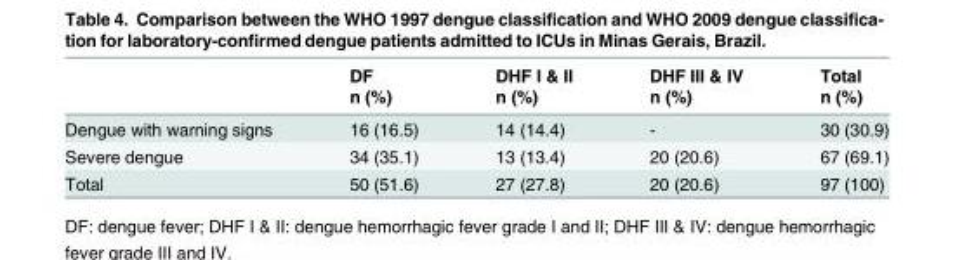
<table><thead><tr><td rowspan="2"></td><td rowspan="2">DF n (%)</td><td rowspan="2">DHF I &amp; II n (%)</td><td rowspan="2">DHF III &amp; IV n (%)</td><td rowspan="2">Total n (%)</td></tr><tr></tr></thead><tbody><tr><td>Dengue with warning signs</td><td>16 (16.5)</td><td>14 (14.4)</td><td>-</td><td>30 (30.9)</td></tr><tr><td>Severe dengue</td><td>34 (35.1)</td><td>13 (13.4)</td><td>20 (20.6)</td><td>67 (69.1)</td></tr><tr><td>Total</td><td>50 (51.6)</td><td>27 (27.8)</td><td>20 (20.6)</td><td>97 (100)</td></tr></tbody></table>